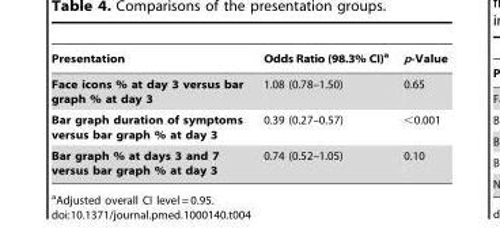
<table><thead><tr><td>Presentation</td><td>Odds Ratio (98.3% CI)<sup>a</sup></td><td>p-Value</td></tr></thead><tbody><tr><td>Face icons % at day 3 versus bar graph % at day 3</td><td>1.08 (0.78–1.50)</td><td>0.65</td></tr><tr><td>Bar graph duration of symptoms versus bar graph % at day 3</td><td>0.39 (0.27–0.57)</td><td>&lt;0.001</td></tr><tr><td>Bar graph % at days 3 and 7 versus bar graph % at day 3</td><td>0.74 (0.52–1.05)</td><td>0.10</td></tr></tbody></table>